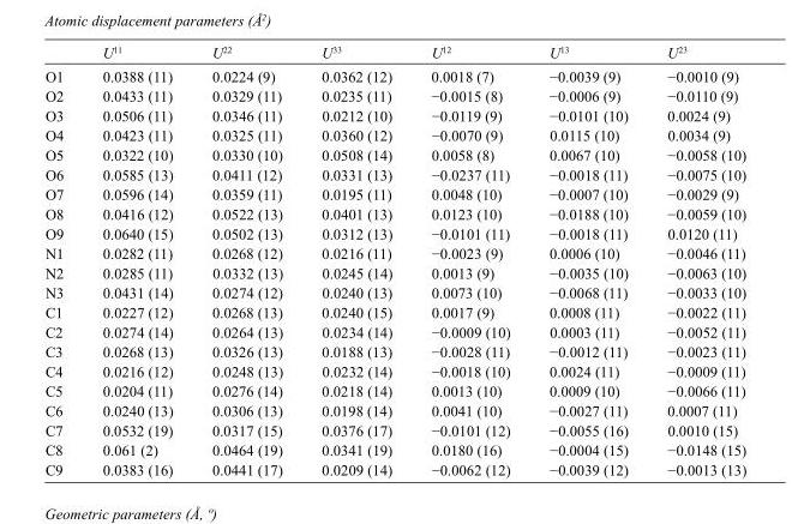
<table><thead><tr><td></td><td>U<sup>11</sup></td><td>U<sup>22</sup></td><td>U<sup>33</sup></td><td>U<sup>12</sup></td><td>U<sup>13</sup></td><td>U<sup>23</sup></td></tr></thead><tbody><tr><td>O1</td><td>0.0388 (11)</td><td>0.0224 (9)</td><td>0.0362 (12)</td><td>0.0018 (7)</td><td>−0.0039 (9)</td><td>−0.0010 (9)</td></tr><tr><td>O2</td><td>0.0433 (11)</td><td>0.0329 (11)</td><td>0.0235 (11)</td><td>−0.0015 (8)</td><td>−0.0006 (9)</td><td>−0.0110 (9)</td></tr><tr><td>O3</td><td>0.0506 (11)</td><td>0.0346 (11)</td><td>0.0212 (10)</td><td>−0.0119 (9)</td><td>−0.0101 (10)</td><td>0.0024 (9)</td></tr><tr><td>O4</td><td>0.0423 (11)</td><td>0.0325 (11)</td><td>0.0360 (12)</td><td>−0.0070 (9)</td><td>0.0115 (10)</td><td>0.0034 (9)</td></tr><tr><td>O5</td><td>0.0322 (10)</td><td>0.0330 (10)</td><td>0.0508 (14)</td><td>0.0058 (8)</td><td>0.0067 (10)</td><td>−0.0058 (10)</td></tr><tr><td>O6</td><td>0.0585 (13)</td><td>0.0411 (12)</td><td>0.0331 (13)</td><td>−0.0237 (11)</td><td>−0.0018 (11)</td><td>−0.0075 (10)</td></tr><tr><td>O7</td><td>0.0596 (14)</td><td>0.0359 (11)</td><td>0.0195 (11)</td><td>0.0048 (10)</td><td>−0.0007 (10)</td><td>−0.0029 (9)</td></tr><tr><td>O8</td><td>0.0416 (12)</td><td>0.0522 (13)</td><td>0.0401 (13)</td><td>0.0123 (10)</td><td>−0.0188 (10)</td><td>−0.0059 (10)</td></tr><tr><td>O9</td><td>0.0640 (15)</td><td>0.0502 (13)</td><td>0.0312 (13)</td><td>−0.0101 (11)</td><td>−0.0018 (11)</td><td>0.0120 (11)</td></tr><tr><td>N1</td><td>0.0282 (11)</td><td>0.0268 (12)</td><td>0.0216 (11)</td><td>−0.0023 (9)</td><td>0.0006 (10)</td><td>−0.0046 (11)</td></tr><tr><td>N2</td><td>0.0285 (11)</td><td>0.0332 (13)</td><td>0.0245 (14)</td><td>0.0013 (9)</td><td>−0.0035 (10)</td><td>−0.0063 (10)</td></tr><tr><td>N3</td><td>0.0431 (14)</td><td>0.0274 (12)</td><td>0.0240 (13)</td><td>0.0073 (10)</td><td>−0.0068 (11)</td><td>−0.0033 (10)</td></tr><tr><td>C1</td><td>0.0227 (12)</td><td>0.0268 (13)</td><td>0.0240 (15)</td><td>0.0017 (9)</td><td>0.0008 (11)</td><td>−0.0022 (11)</td></tr><tr><td>C2</td><td>0.0274 (14)</td><td>0.0264 (13)</td><td>0.0234 (14)</td><td>−0.0009 (10)</td><td>0.0003 (11)</td><td>−0.0052 (11)</td></tr><tr><td>C3</td><td>0.0268 (13)</td><td>0.0326 (13)</td><td>0.0188 (13)</td><td>−0.0028 (11)</td><td>−0.0012 (11)</td><td>−0.0023 (11)</td></tr><tr><td>C4</td><td>0.0216 (12)</td><td>0.0248 (13)</td><td>0.0232 (14)</td><td>−0.0018 (10)</td><td>0.0024 (11)</td><td>−0.0009 (11)</td></tr><tr><td>C5</td><td>0.0204 (11)</td><td>0.0276 (14)</td><td>0.0218 (14)</td><td>0.0013 (10)</td><td>0.0009 (10)</td><td>−0.0066 (11)</td></tr><tr><td>C6</td><td>0.0240 (13)</td><td>0.0306 (13)</td><td>0.0198 (14)</td><td>0.0041 (10)</td><td>−0.0027 (11)</td><td>0.0007 (11)</td></tr><tr><td>C7</td><td>0.0532 (19)</td><td>0.0317 (15)</td><td>0.0376 (17)</td><td>−0.0101 (12)</td><td>−0.0055 (16)</td><td>0.0010 (15)</td></tr><tr><td>C8</td><td>0.061 (2)</td><td>0.0464 (19)</td><td>0.0341 (19)</td><td>0.0180 (16)</td><td>−0.0004 (15)</td><td>−0.0148 (15)</td></tr><tr><td>C9</td><td>0.0383 (16)</td><td>0.0441 (17)</td><td>0.0209 (14)</td><td>−0.0062 (12)</td><td>−0.0039 (12)</td><td>−0.0013 (13)</td></tr></tbody></table>